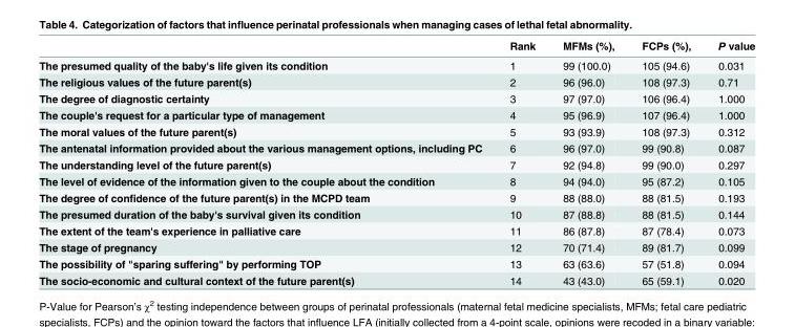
<table><thead><tr><td></td><td>Rank</td><td>MFMs (%),</td><td>FCPs (%),</td><td>P value</td></tr></thead><tbody><tr><td>The presumed quality of the baby&#x27;s life given its condition</td><td>1</td><td>99 (100.0)</td><td>105 (94.6)</td><td>0.031</td></tr><tr><td>The religious values of the future parent(s)</td><td>2</td><td>96 (96.0)</td><td>108 (97.3)</td><td>0.71</td></tr><tr><td>The degree of diagnostic certainty</td><td>3</td><td>97 (97.0)</td><td>106 (96.4)</td><td>1.000</td></tr><tr><td>The couple&#x27;s request for a particular type of management</td><td>4</td><td>95 (96.9)</td><td>107 (96.4)</td><td>1.000</td></tr><tr><td>The moral values of the future parent(s)</td><td>5</td><td>93 (93.9)</td><td>108 (97.3)</td><td>0.312</td></tr><tr><td>The antenatal information provided about the various management options, including PC</td><td>6</td><td>96 (97.0)</td><td>99 (90.8)</td><td>0.087</td></tr><tr><td>The understanding level of the future parent(s)</td><td>7</td><td>92 (94.8)</td><td>99 (90.0)</td><td>0.297</td></tr><tr><td>The level of evidence of the information given to the couple about the condition</td><td>8</td><td>94 (94.0)</td><td>95 (87.2)</td><td>0.105</td></tr><tr><td>The degree of confidence of the future parent(s) in the MCPD team</td><td>9</td><td>88 (88.0)</td><td>88 (81.5)</td><td>0.193</td></tr><tr><td>The presumed duration of the baby&#x27;s survival given its condition</td><td>10</td><td>87 (88.8)</td><td>88 (81.5)</td><td>0.144</td></tr><tr><td>The extent of the team&#x27;s experience in palliative care</td><td>11</td><td>86 (87.8)</td><td>87 (78.4)</td><td>0.073</td></tr><tr><td>The stage of pregnancy</td><td>12</td><td>70 (71.4)</td><td>89 (81.7)</td><td>0.099</td></tr><tr><td>The possibility of &quot;sparing suffering&quot; by performing TOP</td><td>13</td><td>63 (63.6)</td><td>57 (51.8)</td><td>0.094</td></tr><tr><td>The socio-economic and cultural context of the future parent(s)</td><td>14</td><td>43 (43.0)</td><td>65 (59.1)</td><td>0.020</td></tr></tbody></table>